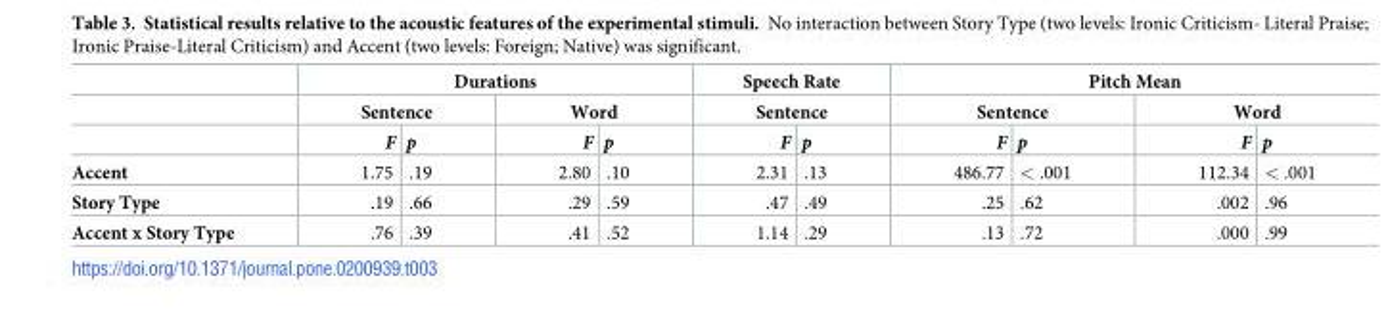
<table><thead><tr><td rowspan="3"></td><td colspan="4">Durations</td><td rowspan="2" colspan="2">Speech Rate Sentence</td><td colspan="4">Pitch Mean</td></tr><tr><td colspan="2">Sentence</td><td colspan="2">Word</td><td colspan="2">Sentence</td><td colspan="2">Word</td></tr><tr><td>F</td><td>p</td><td>F</td><td>p</td><td>F</td><td>p</td><td>F</td><td>p</td><td>F</td><td>p</td></tr></thead><tbody><tr><td>Accent</td><td>1.75</td><td>.19</td><td>2.80</td><td>.10</td><td>2.31</td><td>.13</td><td>486.77</td><td>&lt; .001</td><td>112.34</td><td>&lt; .001</td></tr><tr><td>Story Type</td><td>.19</td><td>.66</td><td>.29</td><td>.59</td><td>.47</td><td>.49</td><td>.25</td><td>.62</td><td>.002</td><td>.96</td></tr><tr><td>Accent x Story Type</td><td>.76</td><td>.39</td><td>.41</td><td>.52</td><td>1.14</td><td>.29</td><td>.13</td><td>.72</td><td>.000</td><td>.99</td></tr></tbody></table>